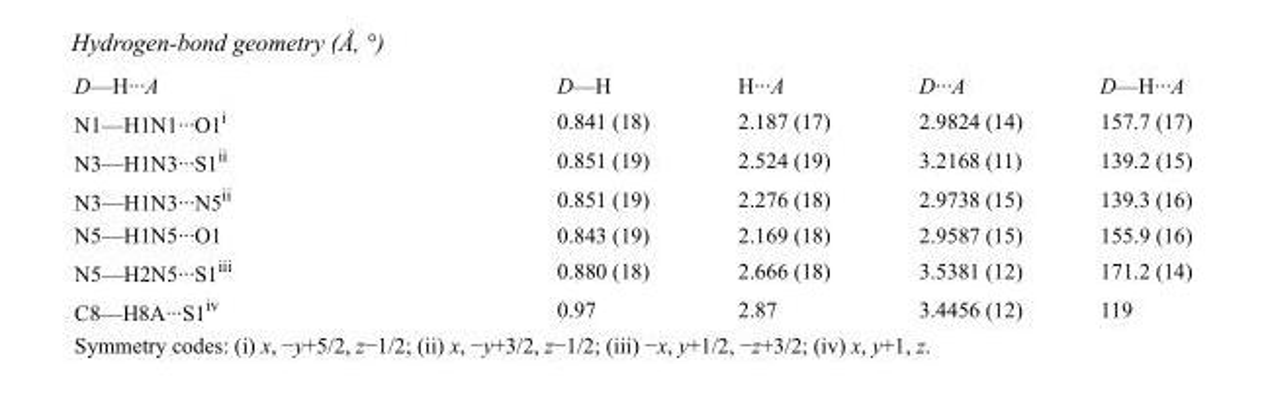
<table><tbody><tr><td>D—H···A</td><td>D—H</td><td>H···A</td><td>D···A</td><td>D—H···A</td></tr><tr><td>N1—H1N1···O1<sup>i</sup></td><td>0.841 (18)</td><td>2.187 (17)</td><td>2.9824 (14)</td><td>157.7 (17)</td></tr><tr><td>N3—H1N3···S1<sup>ii</sup></td><td>0.851 (19)</td><td>2.524 (19)</td><td>3.2168 (11)</td><td>139.2 (15)</td></tr><tr><td>N3—H1N3···N5<sup>ii</sup></td><td>0.851 (19)</td><td>2.276 (18)</td><td>2.9738 (15)</td><td>139.3 (16)</td></tr><tr><td>N5—H1N5···O1</td><td>0.843 (19)</td><td>2.169 (18)</td><td>2.9587 (15)</td><td>155.9 (16)</td></tr><tr><td>N5—H2N5···S1<sup>iii</sup></td><td>0.880 (18)</td><td>2.666 (18)</td><td>3.5381 (12)</td><td>171.2 (14)</td></tr><tr><td>C8—H8A···S1<sup>iv</sup></td><td>0.97</td><td>2.87</td><td>3.4456 (12)</td><td>119</td></tr></tbody></table>